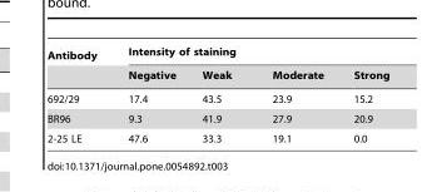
<table><thead><tr><td rowspan="2">Antibody</td><td colspan="4">Intensity of staining</td></tr><tr><td>Negative</td><td>Weak</td><td>Moderate</td><td>Strong</td></tr></thead><tbody><tr><td>692/29</td><td>17.4</td><td>43.5</td><td>23.9</td><td>15.2</td></tr><tr><td>BR96</td><td>9.3</td><td>41.9</td><td>27.9</td><td>20.9</td></tr><tr><td>2-25 LE</td><td>47.6</td><td>33.3</td><td>19.1</td><td>0.0</td></tr></tbody></table>